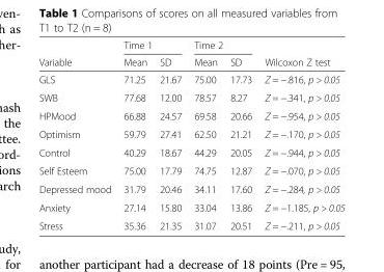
<table><thead><tr><td rowspan="2">Variable</td><td colspan="2">Time 1</td><td colspan="2">Time 2</td><td rowspan="2">Wilcoxon Z test</td></tr><tr><td>Mean</td><td>SD</td><td>Mean</td><td>SD</td></tr></thead><tbody><tr><td>GLS</td><td>71.25</td><td>21.67</td><td>75.00</td><td>17.73</td><td>Z = −.816, p &gt; 0.05</td></tr><tr><td>SWB</td><td>77.68</td><td>12.00</td><td>78.57</td><td>8.27</td><td>Z = −.341, p &gt; 0.05</td></tr><tr><td>HPMood</td><td>66.88</td><td>24.57</td><td>69.58</td><td>20.66</td><td>Z = −.954, p &gt; 0.05</td></tr><tr><td>Optimism</td><td>59.79</td><td>27.41</td><td>62.50</td><td>21.21</td><td>Z = −.170, p &gt; 0.05</td></tr><tr><td>Control</td><td>40.29</td><td>18.67</td><td>44.29</td><td>20.05</td><td>Z = −.944, p &gt; 0.05</td></tr><tr><td>Self Esteem</td><td>75.00</td><td>17.79</td><td>74.75</td><td>12.87</td><td>Z = −.070, p &gt; 0.05</td></tr><tr><td>Depressed mood</td><td>31.79</td><td>20.46</td><td>34.11</td><td>17.60</td><td>Z = −.284, p &gt; 0.05</td></tr><tr><td>Anxiety</td><td>27.14</td><td>15.80</td><td>33.04</td><td>13.86</td><td>Z = −1.185, p &gt; 0.05</td></tr><tr><td>Stress</td><td>35.36</td><td>21.35</td><td>31.07</td><td>20.51</td><td>Z = −.211, p &gt; 0.05</td></tr></tbody></table>